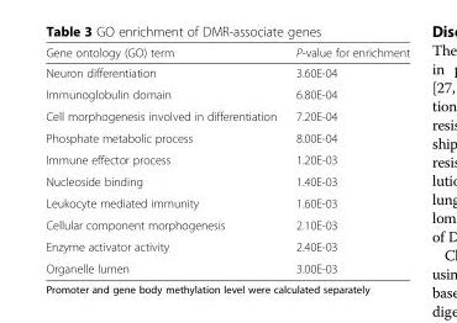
<table><thead><tr><td>Gene ontology (GO) term</td><td>P-value for enrichment</td></tr></thead><tbody><tr><td>Neuron differentiation</td><td>3.60E-04</td></tr><tr><td>Immunoglobulin domain</td><td>6.80E-04</td></tr><tr><td>Cell morphogenesis involved in differentiation</td><td>7.20E-04</td></tr><tr><td>Phosphate metabolic process</td><td>8.00E-04</td></tr><tr><td>Immune effector process</td><td>1.20E-03</td></tr><tr><td>Nucleoside binding</td><td>1.40E-03</td></tr><tr><td>Leukocyte mediated immunity</td><td>1.60E-03</td></tr><tr><td>Cellular component morphogenesis</td><td>2.10E-03</td></tr><tr><td>Enzyme activator activity</td><td>2.40E-03</td></tr><tr><td>Organelle lumen</td><td>3.00E-03</td></tr></tbody></table>